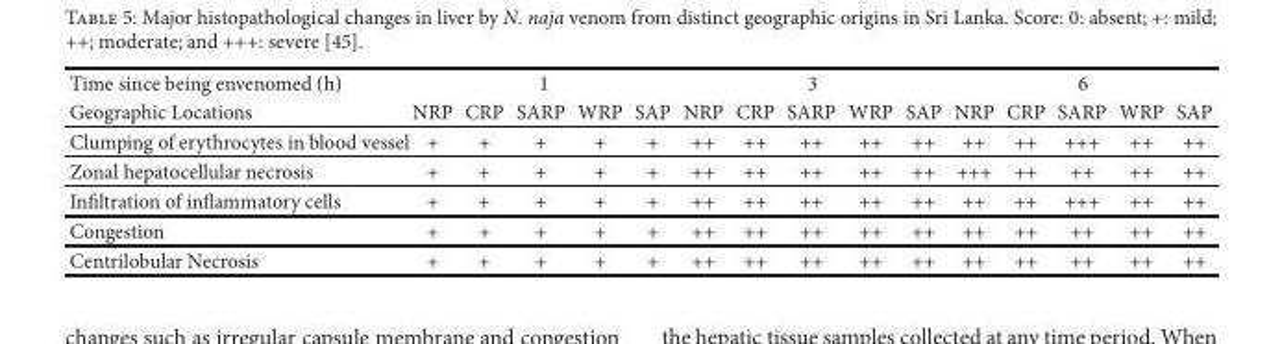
<table><thead><tr><td rowspan="2">Time since being envenomed (h) Geographic Locations</td><td colspan="5">1</td><td colspan="5">3</td><td colspan="5">6</td></tr><tr><td>NRP</td><td>CRP</td><td>SARP</td><td>WRP</td><td>SAP</td><td>NRP</td><td>CRP</td><td>SARP</td><td>WRP</td><td>SAP</td><td>NRP</td><td>CRP</td><td>SARP</td><td>WRP</td><td>SAP</td></tr></thead><tbody><tr><td>Clumping of erythrocytes in blood vessel</td><td>+</td><td>+</td><td>+</td><td>+</td><td>+</td><td>++</td><td>++</td><td>++</td><td>++</td><td>++</td><td>++</td><td>++</td><td>+++</td><td>++</td><td>++</td></tr><tr><td>Zonal hepatocellular necrosis</td><td>+</td><td>+</td><td>+</td><td>+</td><td>+</td><td>++</td><td>++</td><td>++</td><td>++</td><td>++</td><td>+++</td><td>++</td><td>++</td><td>++</td><td>++</td></tr><tr><td>Infiltration of inflammatory cells</td><td>+</td><td>+</td><td>+</td><td>+</td><td>+</td><td>++</td><td>++</td><td>++</td><td>++</td><td>++</td><td>++</td><td>++</td><td>+++</td><td>++</td><td>++</td></tr><tr><td>Congestion</td><td>+</td><td>+</td><td>+</td><td>+</td><td>+</td><td>++</td><td>++</td><td>++</td><td>++</td><td>++</td><td>++</td><td>++</td><td>++</td><td>++</td><td>++</td></tr><tr><td>Centrilobular Necrosis</td><td>+</td><td>+</td><td>+</td><td>+</td><td>+</td><td>++</td><td>++</td><td>++</td><td>++</td><td>++</td><td>++</td><td>++</td><td>++</td><td>++</td><td>++</td></tr></tbody></table>